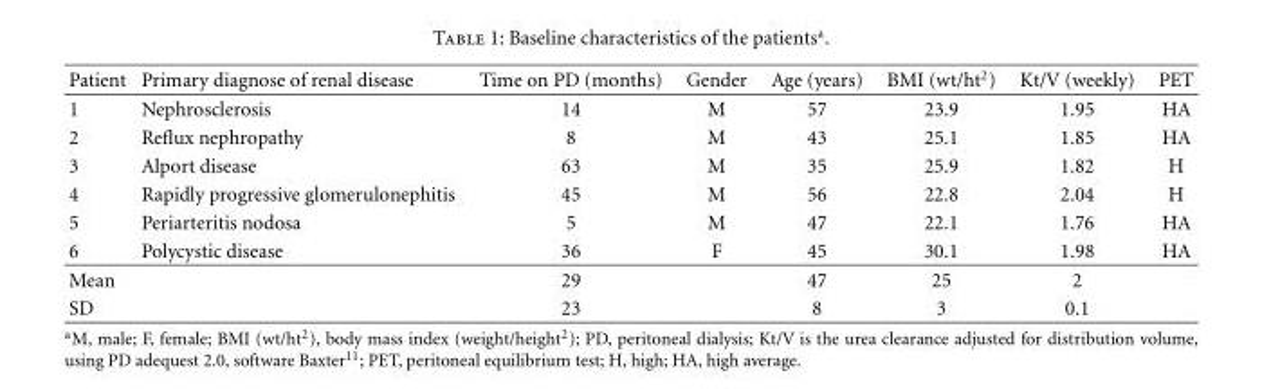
<table><thead><tr><td>Patient</td><td>Primary diagnose of renal disease</td><td>Time on PD (months)</td><td>Gender</td><td>Age (years)</td><td>BMI (wt/ht<sup>2</sup>)</td><td>Kt/V (weekly)</td><td>PET</td></tr></thead><tbody><tr><td>1</td><td>Nephrosclerosis</td><td>14</td><td>M</td><td>57</td><td>23.9</td><td>1.95</td><td>HA</td></tr><tr><td>2</td><td>Reflux nephropathy</td><td>8</td><td>M</td><td>43</td><td>25.1</td><td>1.85</td><td>HA</td></tr><tr><td>3</td><td>Alport disease</td><td>63</td><td>M</td><td>35</td><td>25.9</td><td>1.82</td><td>H</td></tr><tr><td>4</td><td>Rapidly progressive glomerulonephitis</td><td>45</td><td>M</td><td>56</td><td>22.8</td><td>2.04</td><td>H</td></tr><tr><td>5</td><td>Periarteritis nodosa</td><td>5</td><td>M</td><td>47</td><td>22.1</td><td>1.76</td><td>HA</td></tr><tr><td>6</td><td>Polycystic disease</td><td>36</td><td>F</td><td>45</td><td>30.1</td><td>1.98</td><td>HA</td></tr><tr><td>Mean</td><td></td><td>29</td><td></td><td>47</td><td>25</td><td>2</td><td></td></tr><tr><td>SD</td><td></td><td>23</td><td></td><td>8</td><td>3</td><td>0.1</td><td></td></tr></tbody></table>